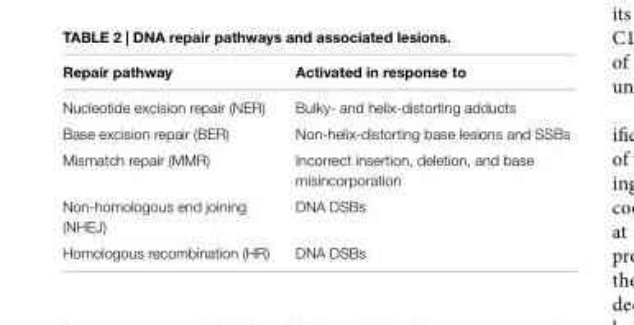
<table><thead><tr><td>Repair pathway</td><td>Activated in response to</td></tr></thead><tbody><tr><td>Nucleotide excision repair (NER)</td><td>Bulky- and helix-distorting adducts</td></tr><tr><td>Base excision repair (BER)</td><td>Non-helix-distorting base lesions and SSBs</td></tr><tr><td>Mismatch repair (MMR)</td><td>Incorrect insertion, deletion, and base misincorporation</td></tr><tr><td>Non-homologous end joining (NHEJ)</td><td>DNA DSBs</td></tr><tr><td>Homologous recombination (HR)</td><td>DNA DSBs</td></tr></tbody></table>